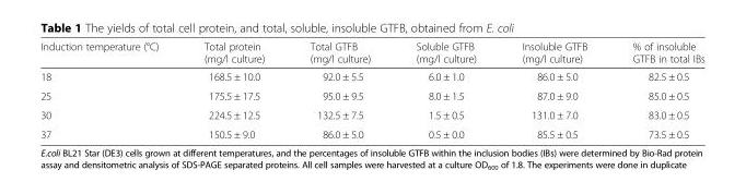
<table><thead><tr><td>Induction temperature (°C)</td><td>Total protein (mg/l culture)</td><td>Total GTFB (mg/l culture)</td><td>Soluble GTFB (mg/l culture)</td><td>Insoluble GTFB (mg/l culture)</td><td>% of insoluble GTFB in total IBs</td></tr></thead><tbody><tr><td>18</td><td>168.5 ± 10.0</td><td>92.0 ± 5.5</td><td>6.0 ± 1.0</td><td>86.0 ± 5.0</td><td>82.5 ± 0.5</td></tr><tr><td>25</td><td>175.5 ± 17.5</td><td>95.0 ± 9.5</td><td>8.0 ± 1.5</td><td>87.0 ± 9.0</td><td>85.0 ± 0.5</td></tr><tr><td>30</td><td>224.5 ± 12.5</td><td>132.5 ± 7.5</td><td>1.5 ± 0.5</td><td>131.0 ± 7.0</td><td>83.0 ± 0.5</td></tr><tr><td>37</td><td>150.5 ± 9.0</td><td>86.0 ± 5.0</td><td>0.5 ± 0.0</td><td>85.5 ± 0.5</td><td>73.5 ± 0.5</td></tr></tbody></table>